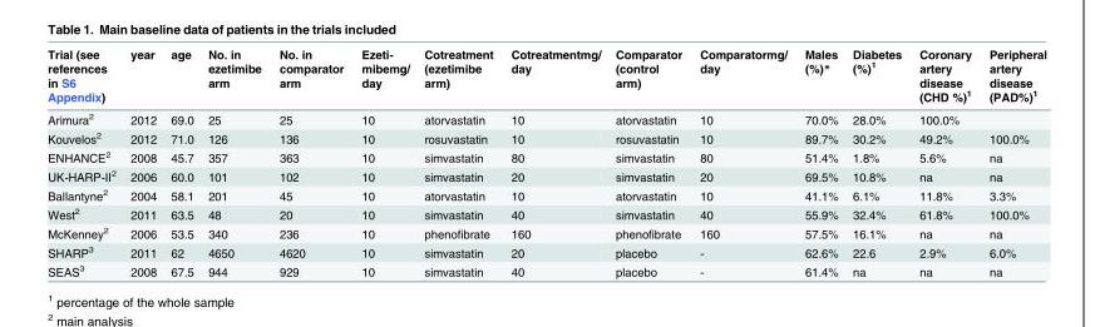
<table><thead><tr><td>Trial (see references in S6 Appendix)</td><td>year</td><td>age</td><td>No. in ezetimibe arm</td><td>No. in comparator arm</td><td>Ezeti- mibemg/ day</td><td>Cotreatment (ezetimibe arm)</td><td>Cotreatmentmg/ day</td><td>Comparator (control arm)</td><td>Comparatormg/ day</td><td>Males (%)*</td><td>Diabetes (%)<sup>1</sup></td><td>Coronary artery disease (CHD %)<sup>1</sup></td><td>Peripheral artery disease (PAD%)<sup>1</sup></td></tr></thead><tbody><tr><td>Arimura<sup>2</sup></td><td>2012</td><td>69.0</td><td>25</td><td>25</td><td>10</td><td>atorvastatin</td><td>10</td><td>atorvastatin</td><td>10</td><td>70.0%</td><td>28.0%</td><td>100.0%</td><td></td></tr><tr><td>Kouvelos<sup>2</sup></td><td>2012</td><td>71.0</td><td>126</td><td>136</td><td>10</td><td>rosuvastatin</td><td>10</td><td>rosuvastatin</td><td>10</td><td>89.7%</td><td>30.2%</td><td>49.2%</td><td>100.0%</td></tr><tr><td>ENHANCE<sup>2</sup></td><td>2008</td><td>45.7</td><td>357</td><td>363</td><td>10</td><td>simvastatin</td><td>80</td><td>simvastatin</td><td>80</td><td>51.4%</td><td>1.8%</td><td>5.6%</td><td>na</td></tr><tr><td>UK-HARP-II<sup>2</sup></td><td>2006</td><td>60.0</td><td>101</td><td>102</td><td>10</td><td>simvastatin</td><td>20</td><td>simvastatin</td><td>20</td><td>69.5%</td><td>10.8%</td><td>na</td><td>na</td></tr><tr><td>Ballantyne<sup>2</sup></td><td>2004</td><td>58.1</td><td>201</td><td>45</td><td>10</td><td>atorvastatin</td><td>10</td><td>atorvastatin</td><td>10</td><td>41.1%</td><td>6.1%</td><td>11.8%</td><td>3.3%</td></tr><tr><td>West<sup>2</sup></td><td>2011</td><td>63.5</td><td>48</td><td>20</td><td>10</td><td>simvastatin</td><td>40</td><td>simvastatin</td><td>40</td><td>55.9%</td><td>32.4%</td><td>61.8%</td><td>100.0%</td></tr><tr><td>McKenney<sup>2</sup></td><td>2006</td><td>53.5</td><td>340</td><td>236</td><td>10</td><td>phenofibrate</td><td>160</td><td>phenofibrate</td><td>160</td><td>57.5%</td><td>16.1%</td><td>na</td><td>na</td></tr><tr><td>SHARP<sup>3</sup></td><td>2011</td><td>62</td><td>4650</td><td>4620</td><td>10</td><td>simvastatin</td><td>20</td><td>placebo</td><td>-</td><td>62.6%</td><td>22.6</td><td>2.9%</td><td>6.0%</td></tr><tr><td>SEAS<sup>3</sup></td><td>2008</td><td>67.5</td><td>944</td><td>929</td><td>10</td><td>simvastatin</td><td>40</td><td>placebo</td><td>-</td><td>61.4%</td><td>na</td><td>na</td><td>na</td></tr></tbody></table>